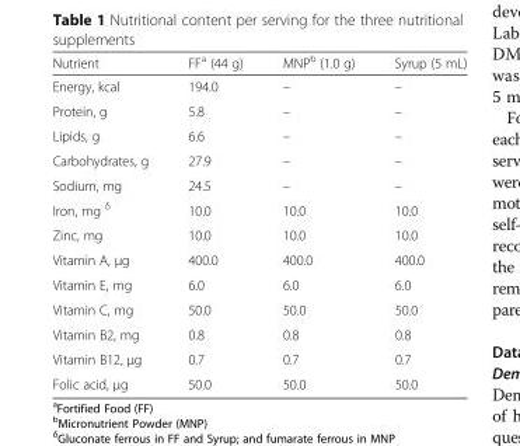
<table><thead><tr><td>Nutrient</td><td>FF<sup>a</sup> (44 g)</td><td>MNP<sup>b</sup> (1.0 g)</td><td>Syrup (5 mL)</td></tr></thead><tbody><tr><td>Energy, kcal</td><td>194.0</td><td>–</td><td>–</td></tr><tr><td>Protein, g</td><td>5.8</td><td>–</td><td>–</td></tr><tr><td>Lipids, g</td><td>6.6</td><td>–</td><td>–</td></tr><tr><td>Carbohydrates, g</td><td>27.9</td><td>–</td><td>–</td></tr><tr><td>Sodium, mg</td><td>24.5</td><td>–</td><td>–</td></tr><tr><td>Iron, mg <sup>δ</sup></td><td>10.0</td><td>10.0</td><td>10.0</td></tr><tr><td>Zinc, mg</td><td>10.0</td><td>10.0</td><td>10.0</td></tr><tr><td>Vitamin A, μg</td><td>400.0</td><td>400.0</td><td>400.0</td></tr><tr><td>Vitamin E, mg</td><td>6.0</td><td>6.0</td><td>6.0</td></tr><tr><td>Vitamin C, mg</td><td>50.0</td><td>50.0</td><td>50.0</td></tr><tr><td>Vitamin B2, mg</td><td>0.8</td><td>0.8</td><td>0.8</td></tr><tr><td>Vitamin B12, μg</td><td>0.7</td><td>0.7</td><td>0.7</td></tr><tr><td>Folic acid, μg</td><td>50.0</td><td>50.0</td><td>50.0</td></tr></tbody></table>